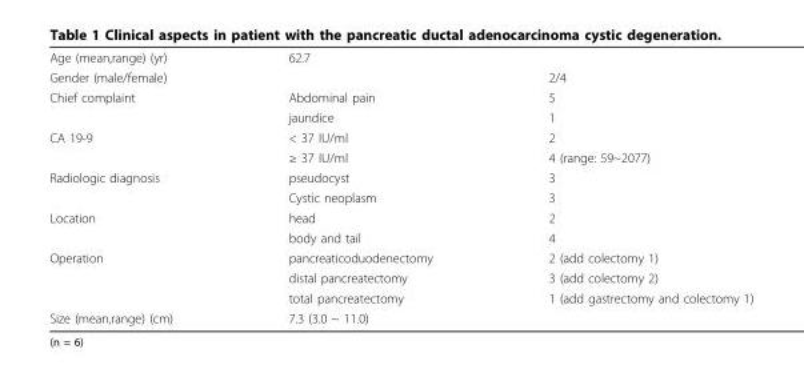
<table><tbody><tr><td>Age (mean,range) (yr)</td><td>62.7</td><td></td></tr><tr><td>Gender (male/female)</td><td></td><td>2/4</td></tr><tr><td rowspan="2">Chief complaint</td><td>Abdominal pain</td><td>5</td></tr><tr><td>jaundice</td><td>1</td></tr><tr><td rowspan="2">CA 19-9</td><td>&lt; 37 IU/ml</td><td>2</td></tr><tr><td>≥ 37 IU/ml</td><td>4 (range: 59~2077)</td></tr><tr><td rowspan="2">Radiologic diagnosis</td><td>pseudocyst</td><td>3</td></tr><tr><td>Cystic neoplasm</td><td>3</td></tr><tr><td rowspan="2">Location</td><td>head</td><td>2</td></tr><tr><td>body and tail</td><td>4</td></tr><tr><td rowspan="3">Operation</td><td>pancreaticoduodenectomy</td><td>2 (add colectomy 1)</td></tr><tr><td>distal pancreatectomy</td><td>3 (add colectomy 2)</td></tr><tr><td>total pancreatectomy</td><td>1 (add gastrectomy and colectomy 1)</td></tr><tr><td>Size (mean,range) (cm)</td><td>7.3 (3.0 ~ 11.0)</td><td></td></tr></tbody></table>